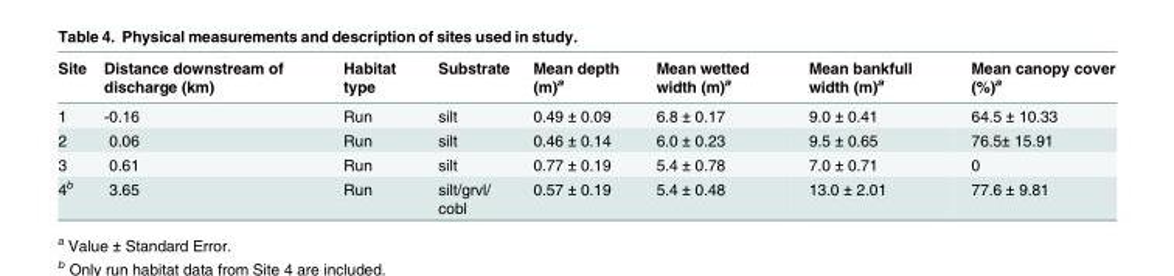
<table><thead><tr><td>Site</td><td>Distance downstream of discharge (km)</td><td>Habitat type</td><td>Substrate</td><td>Mean depth (m)<sup>a</sup></td><td>Mean wetted width (m)<sup>a</sup></td><td>Mean bankfull width (m)<sup>a</sup></td><td>Mean canopy cover (%)<sup>a</sup></td></tr></thead><tbody><tr><td>1</td><td>-0.16</td><td>Run</td><td>silt</td><td>0.49 ± 0.09</td><td>6.8 ± 0.17</td><td>9.0 ± 0.41</td><td>64.5 ± 10.33</td></tr><tr><td>2</td><td>0.06</td><td>Run</td><td>silt</td><td>0.46 ± 0.14</td><td>6.0 ± 0.23</td><td>9.5 ± 0.65</td><td>76.5± 15.91</td></tr><tr><td>3</td><td>0.61</td><td>Run</td><td>silt</td><td>0.77 ± 0.19</td><td>5.4 ± 0.78</td><td>7.0 ± 0.71</td><td>0</td></tr><tr><td>4<sup>b</sup></td><td>3.65</td><td>Run</td><td>silt/grvl/ cobl</td><td>0.57 ± 0.19</td><td>5.4 ± 0.48</td><td>13.0 ± 2.01</td><td>77.6 ± 9.81</td></tr></tbody></table>